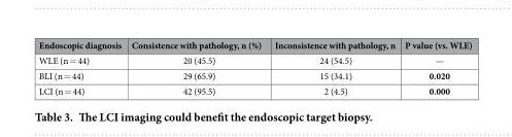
<table><thead><tr><td>Endoscopic diagnosis</td><td>Consistence with pathology, n (%)</td><td>Inconsistence with pathology, n</td><td>P value (vs. WLE)</td></tr></thead><tbody><tr><td>WLE (n = 44)</td><td>20 (45.5)</td><td>24 (54.5)</td><td>—</td></tr><tr><td>BLI (n = 44)</td><td>29 (65.9)</td><td>15 (34.1)</td><td>0.020</td></tr><tr><td>LCI (n = 44)</td><td>42 (95.5)</td><td>2 (4.5)</td><td>0.000</td></tr></tbody></table>